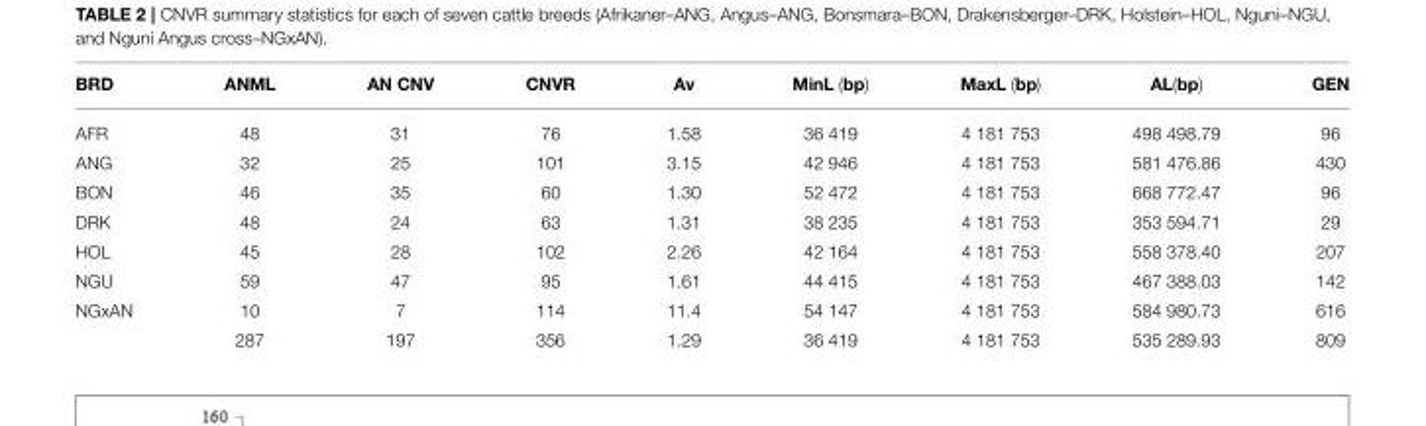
<table><thead><tr><td>BRD</td><td>ANML</td><td>AN CNV</td><td>CNVR</td><td>Av</td><td>MinL (bp)</td><td>MaxL (bp)</td><td>AL(bp)</td><td>GEN</td></tr></thead><tbody><tr><td>AFR</td><td>48</td><td>31</td><td>76</td><td>1.58</td><td>36 419</td><td>4 181 753</td><td>498 498.79</td><td>96</td></tr><tr><td>ANG</td><td>32</td><td>25</td><td>101</td><td>3.15</td><td>42 946</td><td>4 181 753</td><td>581 476.86</td><td>430</td></tr><tr><td>BON</td><td>46</td><td>35</td><td>60</td><td>1.30</td><td>52 472</td><td>4 181 753</td><td>668 772.47</td><td>96</td></tr><tr><td>DRK</td><td>48</td><td>24</td><td>63</td><td>1.31</td><td>38 235</td><td>4 181 753</td><td>353 594.71</td><td>29</td></tr><tr><td>HOL</td><td>45</td><td>28</td><td>102</td><td>2.26</td><td>42 164</td><td>4 181 753</td><td>558 378.40</td><td>207</td></tr><tr><td>NGU</td><td>59</td><td>47</td><td>95</td><td>1.61</td><td>44 415</td><td>4 181 753</td><td>467 388.03</td><td>142</td></tr><tr><td rowspan="2">NGxAN</td><td>10</td><td>7</td><td>114</td><td>11.4</td><td>54 147</td><td>4 181 753</td><td>584 980.73</td><td>616</td></tr><tr><td>287</td><td>197</td><td>356</td><td>1.29</td><td>36 419</td><td>4 181 753</td><td>535 289.93</td><td>809</td></tr></tbody></table>